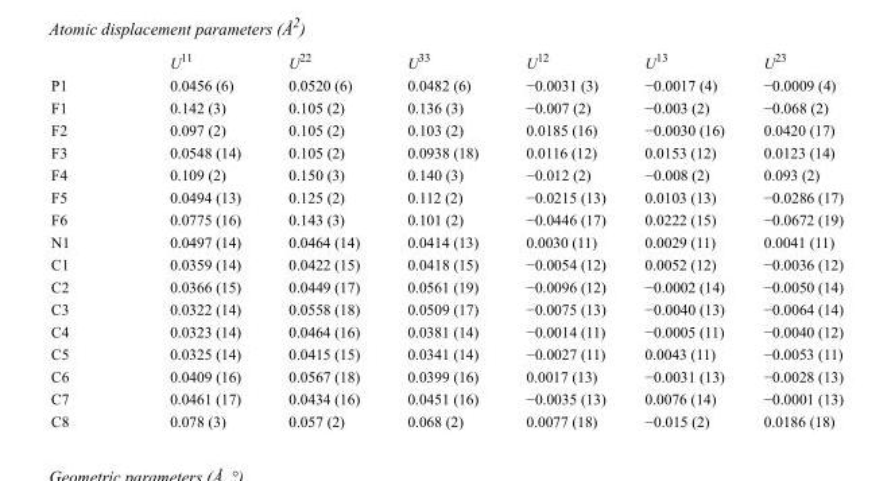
<table><thead><tr><td></td><td>U<sup>11</sup></td><td>U<sup>22</sup></td><td>U<sup>33</sup></td><td>U<sup>12</sup></td><td>U<sup>13</sup></td><td>U<sup>23</sup></td></tr></thead><tbody><tr><td>P1</td><td>0.0456 (6)</td><td>0.0520 (6)</td><td>0.0482 (6)</td><td>−0.0031 (3)</td><td>−0.0017 (4)</td><td>−0.0009 (4)</td></tr><tr><td>F1</td><td>0.142 (3)</td><td>0.105 (2)</td><td>0.136 (3)</td><td>−0.007 (2)</td><td>−0.003 (2)</td><td>−0.068 (2)</td></tr><tr><td>F2</td><td>0.097 (2)</td><td>0.105 (2)</td><td>0.103 (2)</td><td>0.0185 (16)</td><td>−0.0030 (16)</td><td>0.0420 (17)</td></tr><tr><td>F3</td><td>0.0548 (14)</td><td>0.105 (2)</td><td>0.0938 (18)</td><td>0.0116 (12)</td><td>0.0153 (12)</td><td>0.0123 (14)</td></tr><tr><td>F4</td><td>0.109 (2)</td><td>0.150 (3)</td><td>0.140 (3)</td><td>−0.012 (2)</td><td>−0.008 (2)</td><td>0.093 (2)</td></tr><tr><td>F5</td><td>0.0494 (13)</td><td>0.125 (2)</td><td>0.112 (2)</td><td>−0.0215 (13)</td><td>0.0103 (13)</td><td>−0.0286 (17)</td></tr><tr><td>F6</td><td>0.0775 (16)</td><td>0.143 (3)</td><td>0.101 (2)</td><td>−0.0446 (17)</td><td>0.0222 (15)</td><td>−0.0672 (19)</td></tr><tr><td>N1</td><td>0.0497 (14)</td><td>0.0464 (14)</td><td>0.0414 (13)</td><td>0.0030 (11)</td><td>0.0029 (11)</td><td>0.0041 (11)</td></tr><tr><td>C1</td><td>0.0359 (14)</td><td>0.0422 (15)</td><td>0.0418 (15)</td><td>−0.0054 (12)</td><td>0.0052 (12)</td><td>−0.0036 (12)</td></tr><tr><td>C2</td><td>0.0366 (15)</td><td>0.0449 (17)</td><td>0.0561 (19)</td><td>−0.0096 (12)</td><td>−0.0002 (14)</td><td>−0.0050 (14)</td></tr><tr><td>C3</td><td>0.0322 (14)</td><td>0.0558 (18)</td><td>0.0509 (17)</td><td>−0.0075 (13)</td><td>−0.0040 (13)</td><td>−0.0064 (14)</td></tr><tr><td>C4</td><td>0.0323 (14)</td><td>0.0464 (16)</td><td>0.0381 (14)</td><td>−0.0014 (11)</td><td>−0.0005 (11)</td><td>−0.0040 (12)</td></tr><tr><td>C5</td><td>0.0325 (14)</td><td>0.0415 (15)</td><td>0.0341 (14)</td><td>−0.0027 (11)</td><td>0.0043 (11)</td><td>−0.0053 (11)</td></tr><tr><td>C6</td><td>0.0409 (16)</td><td>0.0567 (18)</td><td>0.0399 (16)</td><td>0.0017 (13)</td><td>−0.0031 (13)</td><td>−0.0028 (13)</td></tr><tr><td>C7</td><td>0.0461 (17)</td><td>0.0434 (16)</td><td>0.0451 (16)</td><td>−0.0035 (13)</td><td>0.0076 (14)</td><td>−0.0001 (13)</td></tr><tr><td>C8</td><td>0.078 (3)</td><td>0.057 (2)</td><td>0.068 (2)</td><td>0.0077 (18)</td><td>−0.015 (2)</td><td>0.0186 (18)</td></tr></tbody></table>